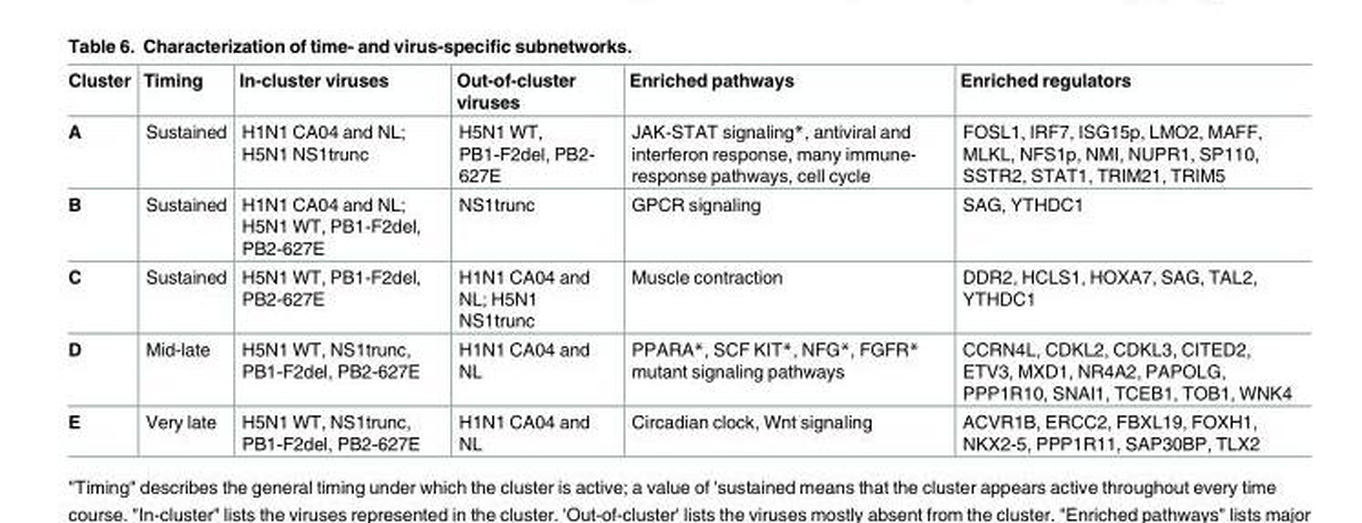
<table><thead><tr><td>Cluster</td><td>Timing</td><td>In-cluster viruses</td><td>Out-of-cluster viruses</td><td>Enriched pathways</td><td>Enriched regulators</td></tr></thead><tbody><tr><td>A</td><td>Sustained</td><td>H1N1 CA04 and NL; H5N1 NS1trunc</td><td>H5N1 WT, PB1-F2del, PB2- 627E</td><td>JAK-STAT signaling*, antiviral and interferon response, many immune- response pathways, cell cycle</td><td>FOSL1, IRF7, ISG15p, LMO2, MAFF, MLKL, NFS1p, NMI, NUPR1, SP110, SSTR2, STAT1, TRIM21, TRIM5</td></tr><tr><td>B</td><td>Sustained</td><td>H1N1 CA04 and NL; H5N1 WT, PB1-F2del, PB2-627E</td><td>NS1trunc</td><td>GPCR signaling</td><td>SAG, YTHDC1</td></tr><tr><td>C</td><td>Sustained</td><td>H5N1 WT, PB1-F2del, PB2-627E</td><td>H1N1 CA04 and NL; H5N1 NS1trunc</td><td>Muscle contraction</td><td>DDR2, HCLS1, HOXA7, SAG, TAL2, YTHDC1</td></tr><tr><td>D</td><td>Mid-late</td><td>H5N1 WT, NS1trunc, PB1-F2del, PB2-627E</td><td>H1N1 CA04 and NL</td><td>PPARA*, SCF KIT*, NFG*, FGFR* mutant signaling pathways</td><td>CCRN4L, CDKL2, CDKL3, CITED2, ETV3, MXD1, NR4A2, PAPOLG, PPP1R10, SNAI1, TCEB1, TOB1, WNK4</td></tr><tr><td>E</td><td>Very late</td><td>H5N1 WT, NS1trunc, PB1-F2del, PB2-627E</td><td>H1N1 CA04 and NL</td><td>Circadian clock, Wnt signaling</td><td>ACVR1B, ERCC2, FBXL19, FOXH1, NKX2-5, PPP1R11, SAP30BP, TLX2</td></tr></tbody></table>